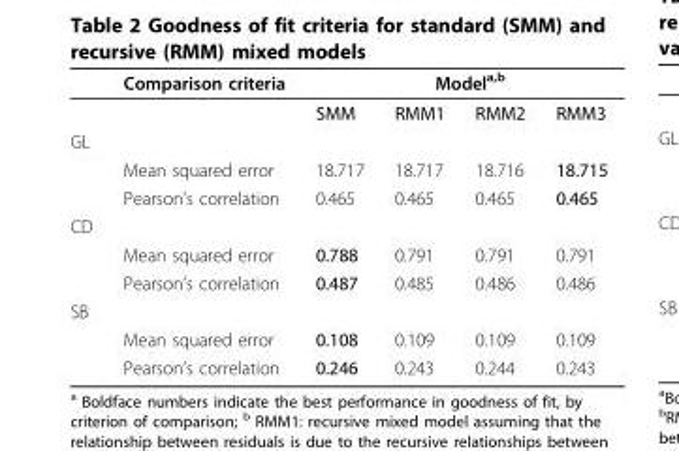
<table><thead><tr><td rowspan="2"></td><td rowspan="2">Comparison criteria</td><td colspan="4">Model<sup>a,b</sup></td></tr><tr><td>SMM</td><td>RMM1</td><td>RMM2</td><td>RMM3</td></tr></thead><tbody><tr><td colspan="6">GL</td></tr><tr><td></td><td>Mean squared error</td><td>18.717</td><td>18.717</td><td>18.716</td><td>18.715</td></tr><tr><td></td><td>Pearson’s correlation</td><td>0.465</td><td>0.465</td><td>0.465</td><td>0.465</td></tr><tr><td colspan="6">CD</td></tr><tr><td></td><td>Mean squared error</td><td>0.788</td><td>0.791</td><td>0.791</td><td>0.791</td></tr><tr><td></td><td>Pearson’s correlation</td><td>0.487</td><td>0.485</td><td>0.486</td><td>0.486</td></tr><tr><td colspan="6">SB</td></tr><tr><td></td><td>Mean squared error</td><td>0.108</td><td>0.109</td><td>0.109</td><td>0.109</td></tr><tr><td></td><td>Pearson’s correlation</td><td>0.246</td><td>0.243</td><td>0.244</td><td>0.243</td></tr></tbody></table>